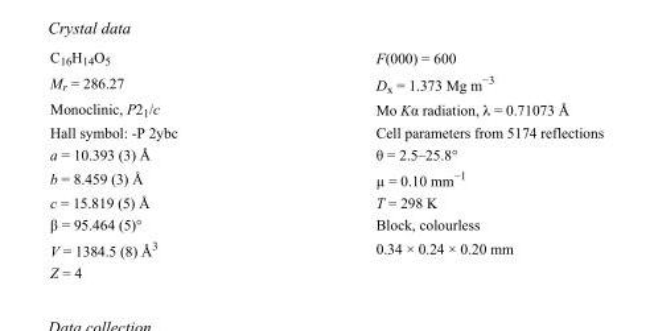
<table><tbody><tr><td>C<sub>16</sub>H<sub>14</sub>O<sub>5</sub></td><td>F(000) = 600</td></tr><tr><td>M<sub>r</sub> = 286.27</td><td>D<sub>x</sub> = 1.373 Mg m<sup>−3</sup></td></tr><tr><td>Monoclinic, P2<sub>1</sub>/c</td><td>Mo Kα radiation, λ = 0.71073 Å</td></tr><tr><td>Hall symbol: -P 2ybc</td><td>Cell parameters from 5174 reflections</td></tr><tr><td>a = 10.393 (3) Å</td><td>θ = 2.5–25.8°</td></tr><tr><td>b = 8.459 (3) Å</td><td>µ = 0.10 mm<sup>−1</sup></td></tr><tr><td>c = 15.819 (5) Å</td><td>T = 298 K</td></tr><tr><td>β = 95.464 (5)°</td><td>Block, colourless</td></tr><tr><td>V = 1384.5 (8) Å<sup>3</sup></td><td>0.34 × 0.24 × 0.20 mm</td></tr><tr><td>Z = 4</td><td></td></tr></tbody></table>